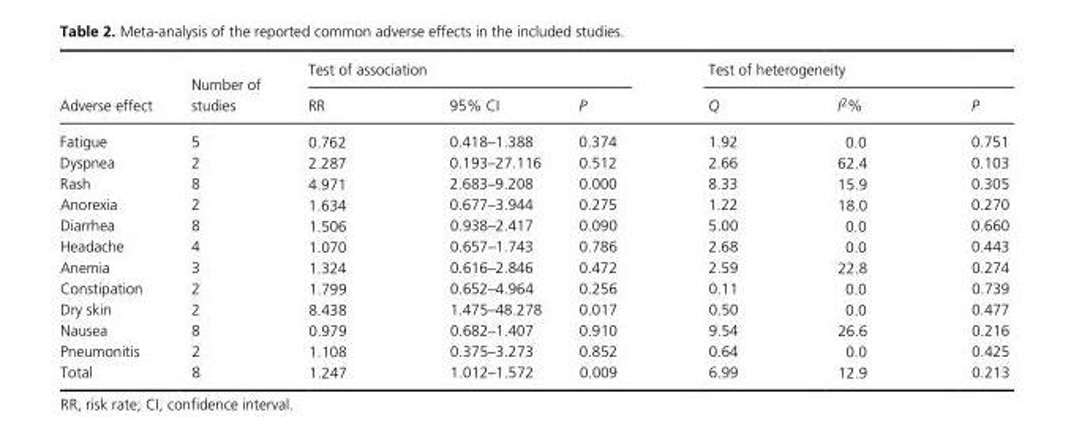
<table><thead><tr><td rowspan="2">Adverse effect</td><td rowspan="2">Number of studies</td><td colspan="3">Test of association</td><td colspan="3">Test of heterogeneity</td></tr><tr><td>RR</td><td>95% CI</td><td>P</td><td>Q</td><td>I<sup>2</sup>%</td><td>P</td></tr></thead><tbody><tr><td>Fatigue</td><td>5</td><td>0.762</td><td>0.418–1.388</td><td>0.374</td><td>1.92</td><td>0.0</td><td>0.751</td></tr><tr><td>Dyspnea</td><td>2</td><td>2.287</td><td>0.193–27.116</td><td>0.512</td><td>2.66</td><td>62.4</td><td>0.103</td></tr><tr><td>Rash</td><td>8</td><td>4.971</td><td>2.683–9.208</td><td>0.000</td><td>8.33</td><td>15.9</td><td>0.305</td></tr><tr><td>Anorexia</td><td>2</td><td>1.634</td><td>0.677–3.944</td><td>0.275</td><td>1.22</td><td>18.0</td><td>0.270</td></tr><tr><td>Diarrhea</td><td>8</td><td>1.506</td><td>0.938–2.417</td><td>0.090</td><td>5.00</td><td>0.0</td><td>0.660</td></tr><tr><td>Headache</td><td>4</td><td>1.070</td><td>0.657–1.743</td><td>0.786</td><td>2.68</td><td>0.0</td><td>0.443</td></tr><tr><td>Anemia</td><td>3</td><td>1.324</td><td>0.616–2.846</td><td>0.472</td><td>2.59</td><td>22.8</td><td>0.274</td></tr><tr><td>Constipation</td><td>2</td><td>1.799</td><td>0.652–4.964</td><td>0.256</td><td>0.11</td><td>0.0</td><td>0.739</td></tr><tr><td>Dry skin</td><td>2</td><td>8.438</td><td>1.475–48.278</td><td>0.017</td><td>0.50</td><td>0.0</td><td>0.477</td></tr><tr><td>Nausea</td><td>8</td><td>0.979</td><td>0.682–1.407</td><td>0.910</td><td>9.54</td><td>26.6</td><td>0.216</td></tr><tr><td>Pneumonitis</td><td>2</td><td>1.108</td><td>0.375–3.273</td><td>0.852</td><td>0.64</td><td>0.0</td><td>0.425</td></tr><tr><td>Total</td><td>8</td><td>1.247</td><td>1.012–1.572</td><td>0.009</td><td>6.99</td><td>12.9</td><td>0.213</td></tr></tbody></table>